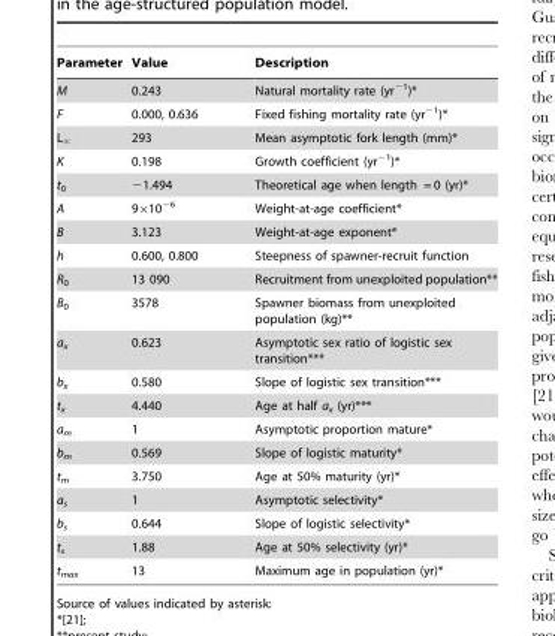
<table><thead><tr><td>Parameter</td><td>Value</td><td>Description</td></tr></thead><tbody><tr><td>M</td><td>0.243</td><td>Natural mortality rate (yr<sup>−1</sup>)*</td></tr><tr><td>F</td><td>0.000, 0.636</td><td>Fixed fishing mortality rate (yr<sup>−1</sup>)*</td></tr><tr><td>L‘</td><td>293</td><td>Mean asymptotic fork length (mm)*</td></tr><tr><td>K</td><td>0.198</td><td>Growth coefficient (yr<sup>−1</sup>)*</td></tr><tr><td>t<sub>0</sub></td><td>−1.494</td><td>Theoretical age when length = 0 (yr)*</td></tr><tr><td>A</td><td>9×10<sup>−6</sup></td><td>Weight-at-age coefficient*</td></tr><tr><td>B</td><td>3.123</td><td>Weight-at-age exponent*</td></tr><tr><td>h</td><td>0.600, 0.800</td><td>Steepness of spawner-recruit function</td></tr><tr><td>R<sub>0</sub></td><td>13 090</td><td>Recruitment from unexploited population**</td></tr><tr><td>B<sub>0</sub></td><td>3578</td><td>Spawner biomass from unexploited population (kg)**</td></tr><tr><td>a<sub>x</sub></td><td>0.623</td><td>Asymptotic sex ratio of logistic sex transition***</td></tr><tr><td>b<sub>x</sub></td><td>0.580</td><td>Slope of logistic sex transition***</td></tr><tr><td>t<sub>x</sub></td><td>4.440</td><td>Age at half a<sub>x</sub> (yr)***</td></tr><tr><td>a<sub>m</sub></td><td>1</td><td>Asymptotic proportion mature*</td></tr><tr><td>b<sub>m</sub></td><td>0.569</td><td>Slope of logistic maturity*</td></tr><tr><td>t<sub>m</sub></td><td>3.750</td><td>Age at 50% maturity (yr)*</td></tr><tr><td>a<sub>s</sub></td><td>1</td><td>Asymptotic selectivity*</td></tr><tr><td>b<sub>s</sub></td><td>0.644</td><td>Slope of logistic selectivity*</td></tr><tr><td>t<sub>s</sub></td><td>1.88</td><td>Age at 50% selectivity (yr)*</td></tr><tr><td>t<sub>max</sub></td><td>13</td><td>Maximum age in population (yr)*</td></tr></tbody></table>